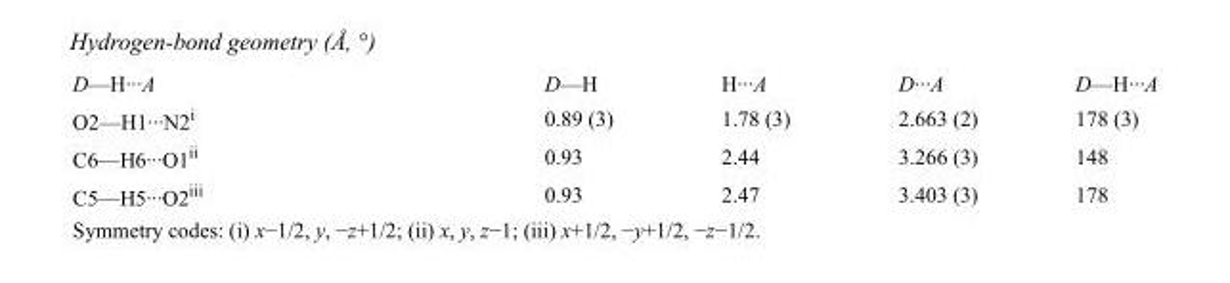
<table><tbody><tr><td>D—H···A</td><td>D—H</td><td>H···A</td><td>D···A</td><td>D—H···A</td></tr><tr><td>O2—H1···N2<sup>i</sup></td><td>0.89 (3)</td><td>1.78 (3)</td><td>2.663 (2)</td><td>178 (3)</td></tr><tr><td>C6—H6···O1<sup>ii</sup></td><td>0.93</td><td>2.44</td><td>3.266 (3)</td><td>148</td></tr><tr><td>C5—H5···O2<sup>iii</sup></td><td>0.93</td><td>2.47</td><td>3.403 (3)</td><td>178</td></tr></tbody></table>